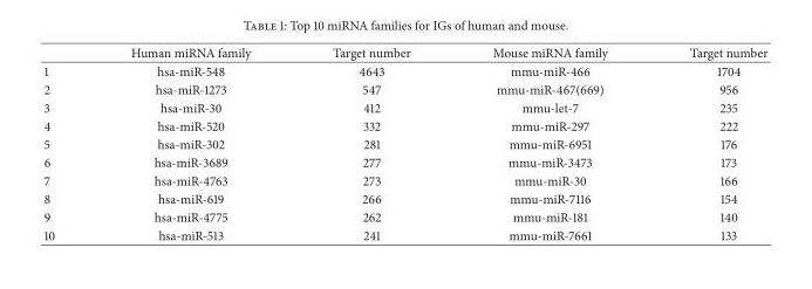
<table><thead><tr><td></td><td>Human miRNA family</td><td>Target number</td><td>Mouse miRNA family</td><td>Target number</td></tr></thead><tbody><tr><td>1</td><td>hsa-miR-548</td><td>4643</td><td>mmu-miR-466</td><td>1704</td></tr><tr><td>2</td><td>hsa-miR-1273</td><td>547</td><td>mmu-miR-467(669)</td><td>956</td></tr><tr><td>3</td><td>hsa-miR-30</td><td>412</td><td>mmu-let-7</td><td>235</td></tr><tr><td>4</td><td>hsa-miR-520</td><td>332</td><td>mmu-miR-297</td><td>222</td></tr><tr><td>5</td><td>hsa-miR-302</td><td>281</td><td>mmu-miR-6951</td><td>176</td></tr><tr><td>6</td><td>hsa-miR-3689</td><td>277</td><td>mmu-miR-3473</td><td>173</td></tr><tr><td>7</td><td>hsa-miR-4763</td><td>273</td><td>mmu-miR-30</td><td>166</td></tr><tr><td>8</td><td>hsa-miR-619</td><td>266</td><td>mmu-miR-7116</td><td>154</td></tr><tr><td>9</td><td>hsa-miR-4775</td><td>262</td><td>mmu-miR-181</td><td>140</td></tr><tr><td>10</td><td>hsa-miR-513</td><td>241</td><td>mmu-miR-7661</td><td>133</td></tr></tbody></table>